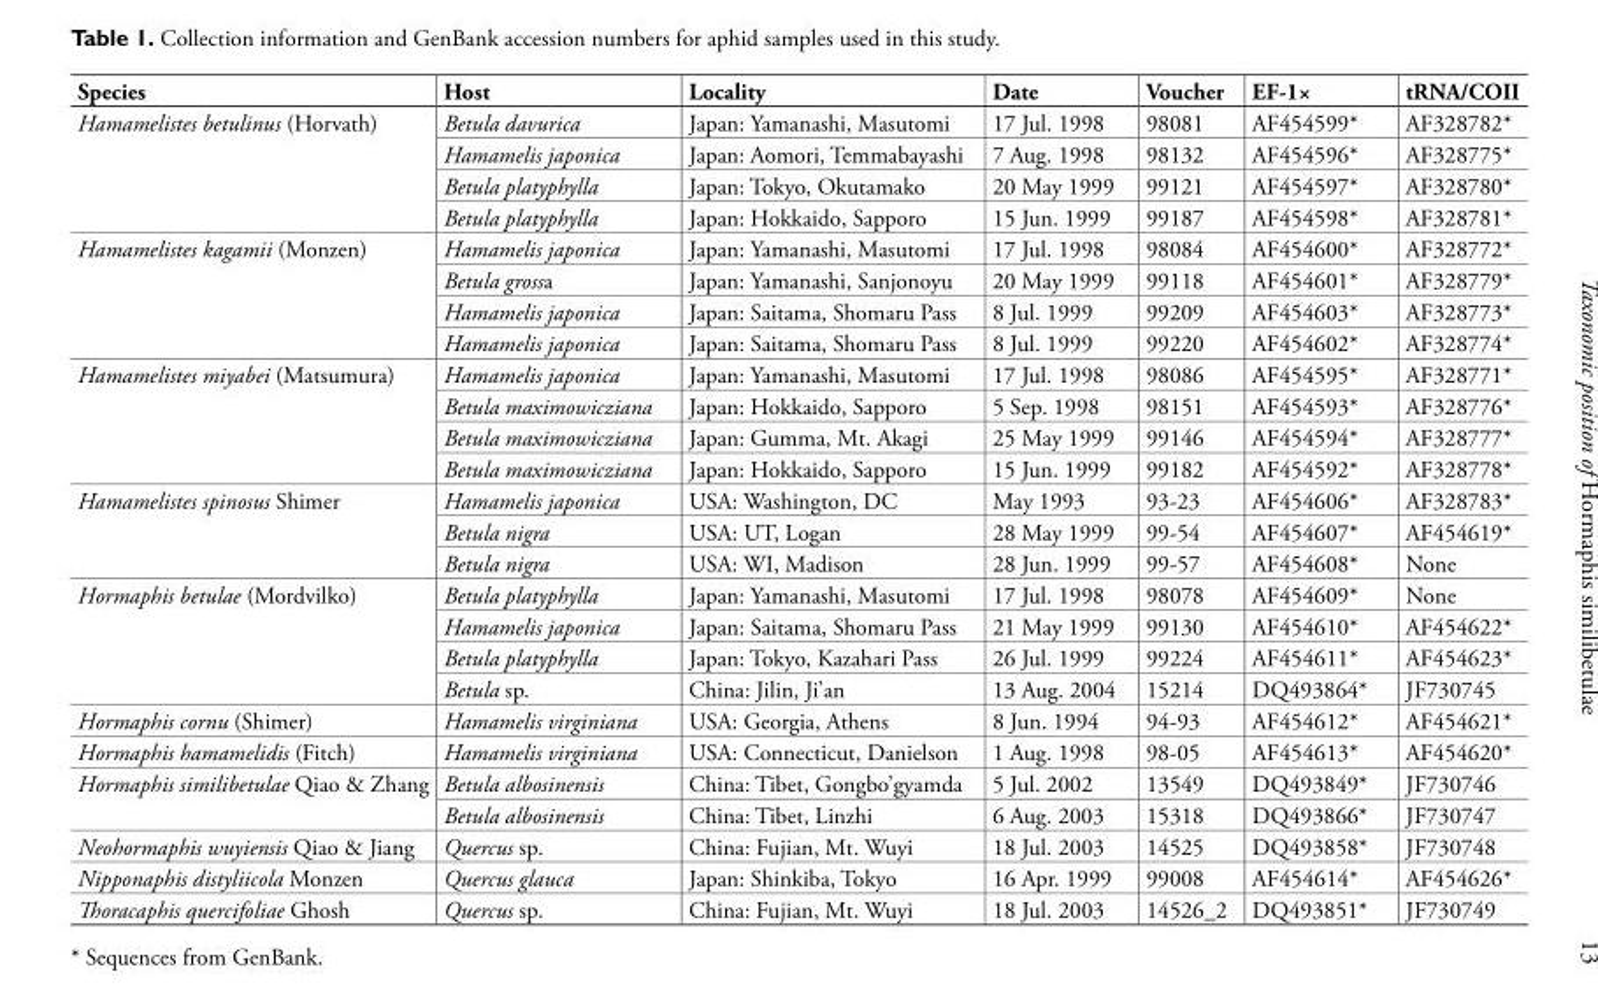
<table><thead><tr><td>Species</td><td>Host</td><td>Locality</td><td>Date</td><td>Voucher</td><td>EF-1×</td><td>tRNA/COII</td></tr></thead><tbody><tr><td rowspan="4">Hamamelistes betulinus (Horvath)</td><td>Betula davurica</td><td>Japan: Yamanashi, Masutomi</td><td>17 Jul. 1998</td><td>98081</td><td>AF454599*</td><td>AF328782*</td></tr><tr><td>Hamamelis japonica</td><td>Japan: Aomori, Temmabayashi</td><td>7 Aug. 1998</td><td>98132</td><td>AF454596*</td><td>AF328775*</td></tr><tr><td>Betula platyphylla</td><td>Japan: Tokyo, Okutamako</td><td>20 May 1999</td><td>99121</td><td>AF454597*</td><td>AF328780*</td></tr><tr><td>Betula platyphylla</td><td>Japan: Hokkaido, Sapporo</td><td>15 Jun. 1999</td><td>99187</td><td>AF454598*</td><td>AF328781*</td></tr><tr><td rowspan="4">Hamamelistes kagamii (Monzen)</td><td>Hamamelis japonica</td><td>Japan: Yamanashi, Masutomi</td><td>17 Jul. 1998</td><td>98084</td><td>AF454600*</td><td>AF328772*</td></tr><tr><td>Betula grossa</td><td>Japan: Yamanashi, Sanjonoyu</td><td>20 May 1999</td><td>99118</td><td>AF454601*</td><td>AF328779*</td></tr><tr><td>Hamamelis japonica</td><td>Japan: Saitama, Shomaru Pass</td><td>8 Jul. 1999</td><td>99209</td><td>AF454603*</td><td>AF328773*</td></tr><tr><td>Hamamelis japonica</td><td>Japan: Saitama, Shomaru Pass</td><td>8 Jul. 1999</td><td>99220</td><td>AF454602*</td><td>AF328774*</td></tr><tr><td rowspan="4">Hamamelistes miyabei (Matsumura)</td><td>Hamamelis japonica</td><td>Japan: Yamanashi, Masutomi</td><td>17 Jul. 1998</td><td>98086</td><td>AF454595*</td><td>AF328771*</td></tr><tr><td>Betula maximowicziana</td><td>Japan: Hokkaido, Sapporo</td><td>5 Sep. 1998</td><td>98151</td><td>AF454593*</td><td>AF328776*</td></tr><tr><td>Betula maximowicziana</td><td>Japan: Gumma, Mt. Akagi</td><td>25 May 1999</td><td>99146</td><td>AF454594*</td><td>AF328777*</td></tr><tr><td>Betula maximowicziana</td><td>Japan: Hokkaido, Sapporo</td><td>15 Jun. 1999</td><td>99182</td><td>AF454592*</td><td>AF328778*</td></tr><tr><td rowspan="3">Hamamelistes spinosus Shimer</td><td>Hamamelis japonica</td><td>USA: Washington, DC</td><td>May 1993</td><td>93-23</td><td>AF454606*</td><td>AF328783*</td></tr><tr><td>Betula nigra</td><td>USA: UT, Logan</td><td>28 May 1999</td><td>99-54</td><td>AF454607*</td><td>AF454619*</td></tr><tr><td>Betula nigra</td><td>USA: WI, Madison</td><td>28 Jun. 1999</td><td>99-57</td><td>AF454608*</td><td>None</td></tr><tr><td rowspan="4">Hormaphis betulae (Mordvilko)</td><td>Betula platyphylla</td><td>Japan: Yamanashi, Masutomi</td><td>17 Jul. 1998</td><td>98078</td><td>AF454609*</td><td>None</td></tr><tr><td>Hamamelis japonica</td><td>Japan: Saitama, Shomaru Pass</td><td>21 May 1999</td><td>99130</td><td>AF454610*</td><td>AF454622*</td></tr><tr><td>Betula platyphylla</td><td>Japan: Tokyo, Kazahari Pass</td><td>26 Jul. 1999</td><td>99224</td><td>AF454611*</td><td>AF454623*</td></tr><tr><td>Betula sp.</td><td>China: Jilin, Ji’an</td><td>13 Aug. 2004</td><td>15214</td><td>DQ493864*</td><td>JF730745</td></tr><tr><td>Hormaphis cornu (Shimer)</td><td>Hamamelis virginiana</td><td>USA: Georgia, Athens</td><td>8 Jun. 1994</td><td>94-93</td><td>AF454612*</td><td>AF454621*</td></tr><tr><td>Hormaphis hamamelidis (Fitch)</td><td>Hamamelis virginiana</td><td>USA: Connecticut, Danielson</td><td>1 Aug. 1998</td><td>98-05</td><td>AF454613*</td><td>AF454620*</td></tr><tr><td rowspan="2">Hormaphis similibetulae Qiao &amp; Zhang</td><td>Betula albosinensis</td><td>China: Tibet, Gongbo’gyamda</td><td>5 Jul. 2002</td><td>13549</td><td>DQ493849*</td><td>JF730746</td></tr><tr><td>Betula albosinensis</td><td>China: Tibet, Linzhi</td><td>6 Aug. 2003</td><td>15318</td><td>DQ493866*</td><td>JF730747</td></tr><tr><td>Neohormaphis wuyiensis Qiao &amp; Jiang</td><td>Quercus sp.</td><td>China: Fujian, Mt. Wuyi</td><td>18 Jul. 2003</td><td>14525</td><td>DQ493858*</td><td>JF730748</td></tr><tr><td>Nipponaphis distyliicola Monzen</td><td>Quercus glauca</td><td>Japan: Shinkiba, Tokyo</td><td>16 Apr. 1999</td><td>99008</td><td>AF454614*</td><td>AF454626*</td></tr><tr><td>Thoracaphis quercifoliae Ghosh</td><td>Quercus sp.</td><td>China: Fujian, Mt. Wuyi</td><td>18 Jul. 2003</td><td>14526_2</td><td>DQ493851*</td><td>JF730749</td></tr></tbody></table>